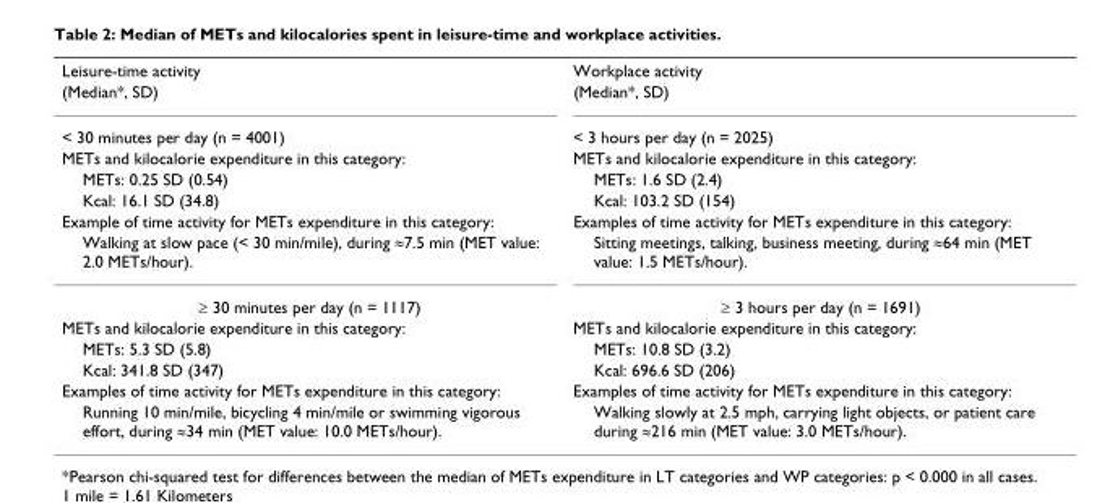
<table><tbody><tr><td>Leisure-time activity</td><td>Workplace activity</td></tr><tr><td>(Median*, SD)</td><td>(Median*, SD)</td></tr><tr><td>&lt; 30 minutes per day (n = 4001)</td><td>&lt; 3 hours per day (n = 2025)</td></tr><tr><td>METs and kilocalorie expenditure in this category:</td><td>METs and kilocalorie expenditure in this category:</td></tr><tr><td>METs: 0.25 SD (0.54)</td><td>METs: 1.6 SD (2.4)</td></tr><tr><td>Kcal: 16.1 SD (34.8)</td><td>Kcal: 103.2 SD (154)</td></tr><tr><td>Example of time activity for METs expenditure in this category:</td><td>Examples of time activity for METs expenditure in this category:</td></tr><tr><td>Walking at slow pace (&lt; 30 min/mile), during ≈7.5 min (MET value: 2.0 METs/hour).</td><td>Sitting meetings, talking, business meeting, during ≈64 min (MET value: 1.5 METs/hour).</td></tr><tr><td>≥ 30 minutes per day (n = 1117)</td><td>≥ 3 hours per day (n = 1691)</td></tr><tr><td>METs and kilocalorie expenditure in this category:</td><td>METs and kilocalorie expenditure in this category:</td></tr><tr><td>METs: 5.3 SD (5.8)</td><td>METs: 10.8 SD (3.2)</td></tr><tr><td>Kcal: 341.8 SD (347)</td><td>Kcal: 696.6 SD (206)</td></tr><tr><td>Examples of time activity for METs expenditure in this category:</td><td>Examples of time activity for METs expenditure in this category:</td></tr><tr><td>Running 10 min/mile, bicycling 4 min/mile or swimming vigorous effort, during ≈34 min (MET value: 10.0 METs/hour).</td><td>Walking slowly at 2.5 mph, carrying light objects, or patient care during ≈216 min (MET value: 3.0 METs/hour).</td></tr></tbody></table>